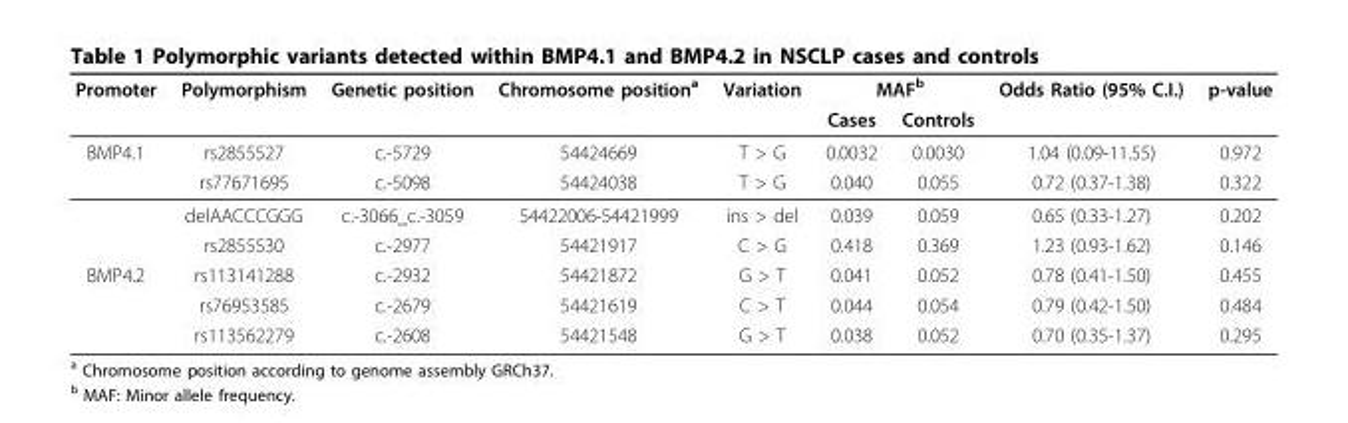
<table><thead><tr><td rowspan="2">Promoter</td><td rowspan="2">Polymorphism</td><td rowspan="2">Genetic position</td><td rowspan="2">Chromosome position<sup>a</sup></td><td rowspan="2">Variation</td><td colspan="2">MAF<sup>b</sup></td><td rowspan="2">Odds Ratio (95% C.I.)</td><td rowspan="2">p-value</td></tr><tr><td>Cases</td><td>Controls</td></tr></thead><tbody><tr><td rowspan="4">BMP4.1</td><td>rs2855527</td><td>c.-5729</td><td>54424669</td><td>T &gt; G</td><td>0.0032</td><td>0.0030</td><td>1.04 (0.09-11.55)</td><td>0.972</td></tr><tr><td>rs77671695</td><td>c.-5098</td><td>54424038</td><td>T &gt; G</td><td>0.040</td><td>0.055</td><td>0.72 (0.37-1.38)</td><td>0.322</td></tr><tr><td>delAACCCGGG</td><td>c.-3066_c.-3059</td><td>54422006-54421999</td><td>ins &gt; del</td><td>0.039</td><td>0.059</td><td>0.65 (0.33-1.27)</td><td>0.202</td></tr><tr><td>rs2855530</td><td>c.-2977</td><td>54421917</td><td>C &gt; G</td><td>0.418</td><td>0.369</td><td>1.23 (0.93-1.62)</td><td>0.146</td></tr><tr><td rowspan="3">BMP4.2</td><td>rs113141288</td><td>c.-2932</td><td>54421872</td><td>G &gt; T</td><td>0.041</td><td>0.052</td><td>0.78 (0.41-1.50)</td><td>0.455</td></tr><tr><td>rs76953585</td><td>c.-2679</td><td>54421619</td><td>C &gt; T</td><td>0.044</td><td>0.054</td><td>0.79 (0.42-1.50)</td><td>0.484</td></tr><tr><td>rs113562279</td><td>c.-2608</td><td>54421548</td><td>G &gt; T</td><td>0.038</td><td>0.052</td><td>0.70 (0.35-1.37)</td><td>0.295</td></tr></tbody></table>